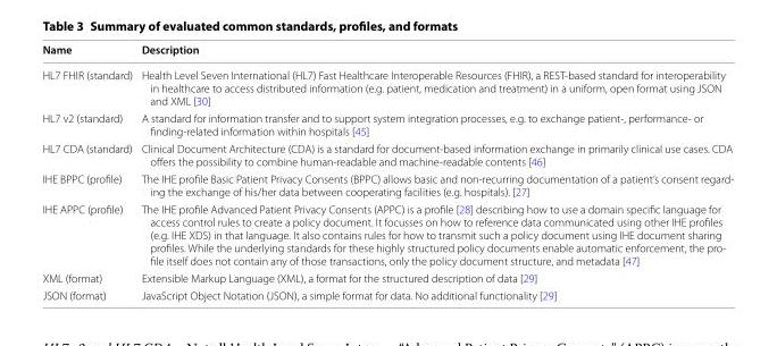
<table><thead><tr><td>Name</td><td>Description</td></tr></thead><tbody><tr><td>HL7 FHIR (standard)</td><td>Health Level Seven International (HL7) Fast Healthcare Interoperable Resources (FHIR), a REST-based standard for interoperability in healthcare to access distributed information (e.g. patient, medication and treatment) in a uniform, open format using JSON and XML [30]</td></tr><tr><td>HL7 v2 (standard)</td><td>A standard for information transfer and to support system integration processes, e.g. to exchange patient-, performance- or finding-related information within hospitals [45]</td></tr><tr><td>HL7 CDA (standard)</td><td>Clinical Document Architecture (CDA) is a standard for document-based information exchange in primarily clinical use cases. CDA offers the possibility to combine human-readable and machine-readable contents [46]</td></tr><tr><td>IHE BPPC (profile)</td><td>The IHE profile Basic Patient Privacy Consents (BPPC) allows basic and non-recurring documentation of a patient’s consent regard- ing the exchange of his/her data between cooperating facilities (e.g. hospitals). [27]</td></tr><tr><td>IHE APPC (profile)</td><td>The IHE profile Advanced Patient Privacy Consents (APPC) is a profile [28] describing how to use a domain specific language for access control rules to create a policy document. It focusses on how to reference data communicated using other IHE profiles (e.g. IHE XDS) in that language. It also contains rules for how to transmit such a policy document using IHE document sharing profiles. While the underlying standards for these highly structured policy documents enable automatic enforcement, the pro- file itself does not contain any of those transactions, only the policy document structure, and metadata [47]</td></tr><tr><td>XML (format)</td><td>Extensible Markup Language (XML), a format for the structured description of data [29]</td></tr><tr><td>JSON (format)</td><td>JavaScript Object Notation (JSON), a simple format for data. No additional functionality [29]</td></tr></tbody></table>